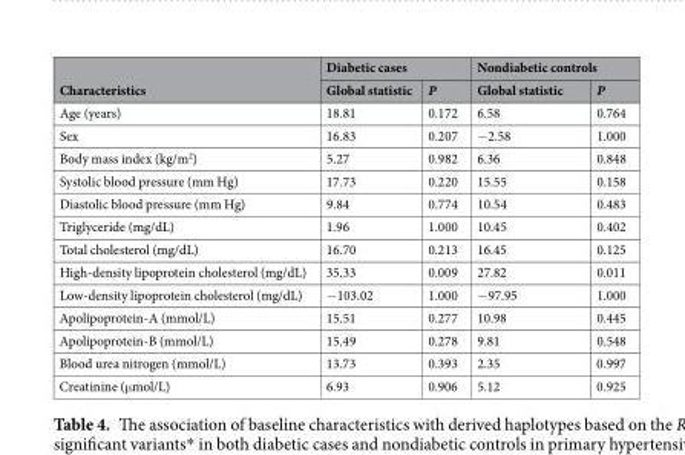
<table><thead><tr><td rowspan="2">Characteristics</td><td colspan="2">Diabetic cases</td><td colspan="2">Nondiabetic controls</td></tr><tr><td>Global statistic</td><td>P</td><td>Global statistic</td><td>P</td></tr></thead><tbody><tr><td>Age (years)</td><td>18.81</td><td>0.172</td><td>6.58</td><td>0.764</td></tr><tr><td>Sex</td><td>16.83</td><td>0.207</td><td>−2.58</td><td>1.000</td></tr><tr><td>Body mass index (kg/m<sup>2</sup>)</td><td>5.27</td><td>0.982</td><td>6.36</td><td>0.848</td></tr><tr><td>Systolic blood pressure (mm Hg)</td><td>17.73</td><td>0.220</td><td>15.55</td><td>0.158</td></tr><tr><td>Diastolic blood pressure (mm Hg)</td><td>9.84</td><td>0.774</td><td>10.54</td><td>0.483</td></tr><tr><td>Triglyceride (mg/dL)</td><td>1.96</td><td>1.000</td><td>10.45</td><td>0.402</td></tr><tr><td>Total cholesterol (mg/dL)</td><td>16.70</td><td>0.213</td><td>16.45</td><td>0.125</td></tr><tr><td>High-density lipoprotein cholesterol (mg/dL)</td><td>35.33</td><td>0.009</td><td>27.82</td><td>0.011</td></tr><tr><td>Low-density lipoprotein cholesterol (mg/dL)</td><td>−103.02</td><td>1.000</td><td>−97.95</td><td>1.000</td></tr><tr><td>Apolipoprotein-A (mmol/L)</td><td>15.51</td><td>0.277</td><td>10.98</td><td>0.445</td></tr><tr><td>Apolipoprotein-B (mmol/L)</td><td>15.49</td><td>0.278</td><td>9.81</td><td>0.548</td></tr><tr><td>Blood urea nitrogen (mmol/L)</td><td>13.73</td><td>0.393</td><td>2.35</td><td>0.997</td></tr><tr><td>Creatinine (μmol/L)</td><td>6.93</td><td>0.906</td><td>5.12</td><td>0.925</td></tr></tbody></table>